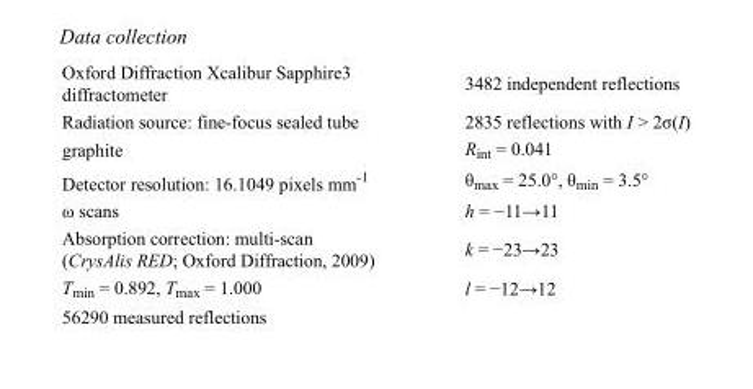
<table><tbody><tr><td>Oxford Diffraction Xcalibur Sapphire3 diffractometer</td><td>3482 independent reflections</td></tr><tr><td>Radiation source: fine-focus sealed tube</td><td>2835 reflections with I &gt; 2σ(I)</td></tr><tr><td>graphite</td><td>R<sub>int</sub> = 0.041</td></tr><tr><td>Detector resolution: 16.1049 pixels mm<sup>-1</sup></td><td>θ<sub>max</sub> = 25.0°, θ<sub>min</sub> = 3.5°</td></tr><tr><td>ω scans</td><td>h = −11→11</td></tr><tr><td>Absorption correction: multi-scan (CrysAlis RED; Oxford Diffraction, 2009)</td><td>k = −23→23</td></tr><tr><td>T<sub>min</sub> = 0.892, T<sub>max</sub> = 1.000</td><td>l = −12→12</td></tr><tr><td>56290 measured reflections</td><td></td></tr></tbody></table>